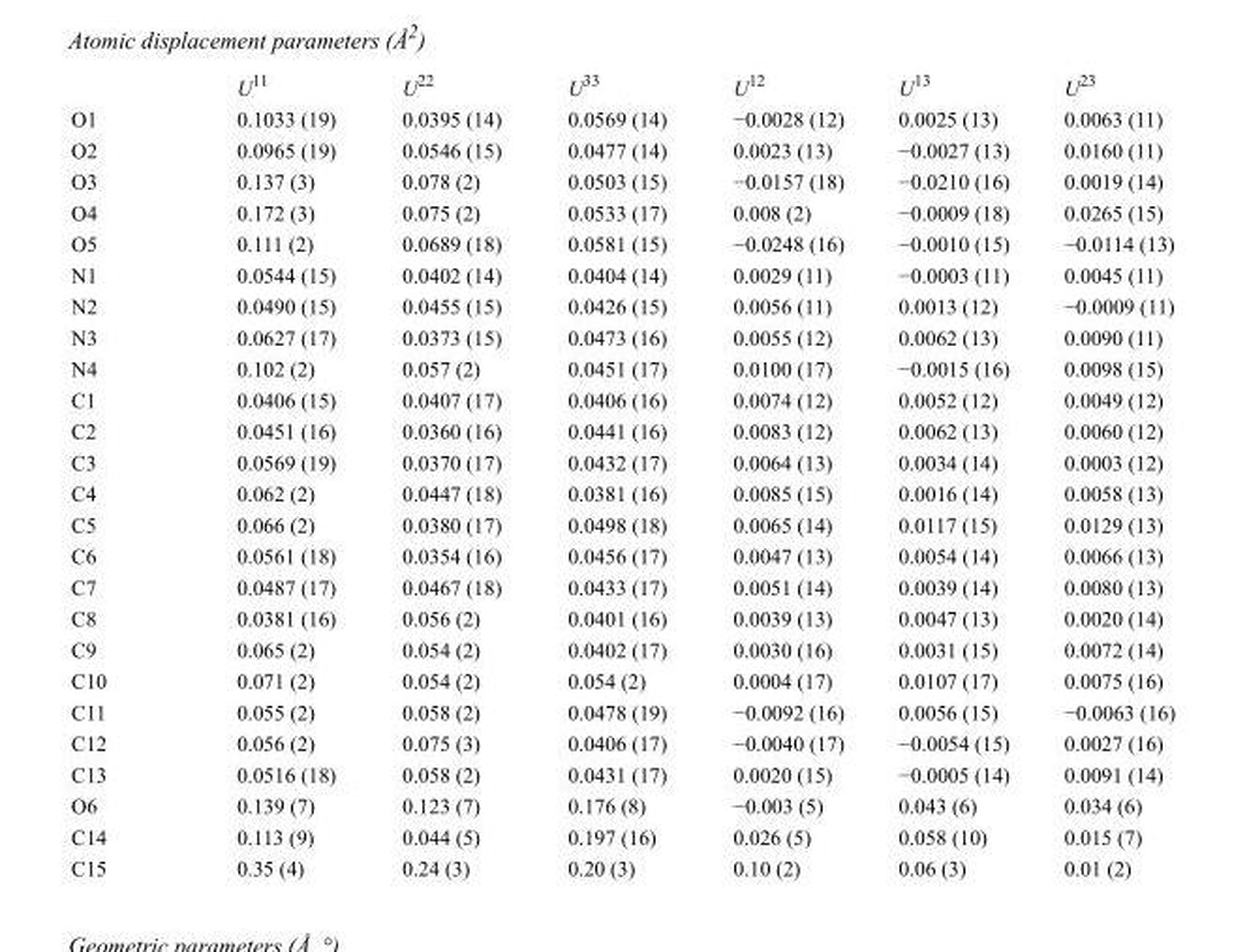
<table><thead><tr><td></td><td>U<sup>11</sup></td><td>U<sup>22</sup></td><td>U<sup>33</sup></td><td>U<sup>12</sup></td><td>U<sup>13</sup></td><td>U<sup>23</sup></td></tr></thead><tbody><tr><td>O1</td><td>0.1033 (19)</td><td>0.0395 (14)</td><td>0.0569 (14)</td><td>−0.0028 (12)</td><td>0.0025 (13)</td><td>0.0063 (11)</td></tr><tr><td>O2</td><td>0.0965 (19)</td><td>0.0546 (15)</td><td>0.0477 (14)</td><td>0.0023 (13)</td><td>−0.0027 (13)</td><td>0.0160 (11)</td></tr><tr><td>O3</td><td>0.137 (3)</td><td>0.078 (2)</td><td>0.0503 (15)</td><td>−0.0157 (18)</td><td>−0.0210 (16)</td><td>0.0019 (14)</td></tr><tr><td>O4</td><td>0.172 (3)</td><td>0.075 (2)</td><td>0.0533 (17)</td><td>0.008 (2)</td><td>−0.0009 (18)</td><td>0.0265 (15)</td></tr><tr><td>O5</td><td>0.111 (2)</td><td>0.0689 (18)</td><td>0.0581 (15)</td><td>−0.0248 (16)</td><td>−0.0010 (15)</td><td>−0.0114 (13)</td></tr><tr><td>N1</td><td>0.0544 (15)</td><td>0.0402 (14)</td><td>0.0404 (14)</td><td>0.0029 (11)</td><td>−0.0003 (11)</td><td>0.0045 (11)</td></tr><tr><td>N2</td><td>0.0490 (15)</td><td>0.0455 (15)</td><td>0.0426 (15)</td><td>0.0056 (11)</td><td>0.0013 (12)</td><td>−0.0009 (11)</td></tr><tr><td>N3</td><td>0.0627 (17)</td><td>0.0373 (15)</td><td>0.0473 (16)</td><td>0.0055 (12)</td><td>0.0062 (13)</td><td>0.0090 (11)</td></tr><tr><td>N4</td><td>0.102 (2)</td><td>0.057 (2)</td><td>0.0451 (17)</td><td>0.0100 (17)</td><td>−0.0015 (16)</td><td>0.0098 (15)</td></tr><tr><td>C1</td><td>0.0406 (15)</td><td>0.0407 (17)</td><td>0.0406 (16)</td><td>0.0074 (12)</td><td>0.0052 (12)</td><td>0.0049 (12)</td></tr><tr><td>C2</td><td>0.0451 (16)</td><td>0.0360 (16)</td><td>0.0441 (16)</td><td>0.0083 (12)</td><td>0.0062 (13)</td><td>0.0060 (12)</td></tr><tr><td>C3</td><td>0.0569 (19)</td><td>0.0370 (17)</td><td>0.0432 (17)</td><td>0.0064 (13)</td><td>0.0034 (14)</td><td>0.0003 (12)</td></tr><tr><td>C4</td><td>0.062 (2)</td><td>0.0447 (18)</td><td>0.0381 (16)</td><td>0.0085 (15)</td><td>0.0016 (14)</td><td>0.0058 (13)</td></tr><tr><td>C5</td><td>0.066 (2)</td><td>0.0380 (17)</td><td>0.0498 (18)</td><td>0.0065 (14)</td><td>0.0117 (15)</td><td>0.0129 (13)</td></tr><tr><td>C6</td><td>0.0561 (18)</td><td>0.0354 (16)</td><td>0.0456 (17)</td><td>0.0047 (13)</td><td>0.0054 (14)</td><td>0.0066 (13)</td></tr><tr><td>C7</td><td>0.0487 (17)</td><td>0.0467 (18)</td><td>0.0433 (17)</td><td>0.0051 (14)</td><td>0.0039 (14)</td><td>0.0080 (13)</td></tr><tr><td>C8</td><td>0.0381 (16)</td><td>0.056 (2)</td><td>0.0401 (16)</td><td>0.0039 (13)</td><td>0.0047 (13)</td><td>0.0020 (14)</td></tr><tr><td>C9</td><td>0.065 (2)</td><td>0.054 (2)</td><td>0.0402 (17)</td><td>0.0030 (16)</td><td>0.0031 (15)</td><td>0.0072 (14)</td></tr><tr><td>C10</td><td>0.071 (2)</td><td>0.054 (2)</td><td>0.054 (2)</td><td>0.0004 (17)</td><td>0.0107 (17)</td><td>0.0075 (16)</td></tr><tr><td>C11</td><td>0.055 (2)</td><td>0.058 (2)</td><td>0.0478 (19)</td><td>−0.0092 (16)</td><td>0.0056 (15)</td><td>−0.0063 (16)</td></tr><tr><td>C12</td><td>0.056 (2)</td><td>0.075 (3)</td><td>0.0406 (17)</td><td>−0.0040 (17)</td><td>−0.0054 (15)</td><td>0.0027 (16)</td></tr><tr><td>C13</td><td>0.0516 (18)</td><td>0.058 (2)</td><td>0.0431 (17)</td><td>0.0020 (15)</td><td>−0.0005 (14)</td><td>0.0091 (14)</td></tr><tr><td>O6</td><td>0.139 (7)</td><td>0.123 (7)</td><td>0.176 (8)</td><td>−0.003 (5)</td><td>0.043 (6)</td><td>0.034 (6)</td></tr><tr><td>C14</td><td>0.113 (9)</td><td>0.044 (5)</td><td>0.197 (16)</td><td>0.026 (5)</td><td>0.058 (10)</td><td>0.015 (7)</td></tr><tr><td>C15</td><td>0.35 (4)</td><td>0.24 (3)</td><td>0.20 (3)</td><td>0.10 (2)</td><td>0.06 (3)</td><td>0.01 (2)</td></tr></tbody></table>